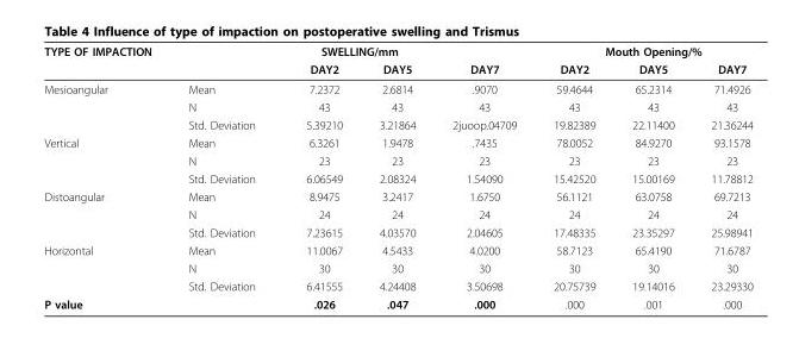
<table><thead><tr><td rowspan="2">TYPE OF IMPACTION</td><td colspan="4">SWELLING/mm</td><td colspan="3">Mouth Opening/%</td></tr><tr><td></td><td>DAY2</td><td>DAY5</td><td>DAY7</td><td>DAY2</td><td>DAY5</td><td>DAY7</td></tr></thead><tbody><tr><td rowspan="3">Mesioangular</td><td>Mean</td><td>7.2372</td><td>2.6814</td><td>.9070</td><td>59.4644</td><td>65.2314</td><td>71.4926</td></tr><tr><td>N</td><td>43</td><td>43</td><td>43</td><td>43</td><td>43</td><td>43</td></tr><tr><td>Std. Deviation</td><td>5.39210</td><td>3.21864</td><td>2juoop.04709</td><td>19.82389</td><td>22.11400</td><td>21.36244</td></tr><tr><td rowspan="3">Vertical</td><td>Mean</td><td>6.3261</td><td>1.9478</td><td>.7435</td><td>78.0052</td><td>84.9270</td><td>93.1578</td></tr><tr><td>N</td><td>23</td><td>23</td><td>23</td><td>23</td><td>23</td><td>23</td></tr><tr><td>Std. Deviation</td><td>6.06549</td><td>2.08324</td><td>1.54090</td><td>15.42520</td><td>15.00169</td><td>11.78812</td></tr><tr><td rowspan="3">Distoangular</td><td>Mean</td><td>8.9475</td><td>3.2417</td><td>1.6750</td><td>56.1121</td><td>63.0758</td><td>69.7213</td></tr><tr><td>N</td><td>24</td><td>24</td><td>24</td><td>24</td><td>24</td><td>24</td></tr><tr><td>Std. Deviation</td><td>7.23615</td><td>4.03570</td><td>2.04605</td><td>17.48335</td><td>23.35297</td><td>25.98941</td></tr><tr><td rowspan="3">Horizontal</td><td>Mean</td><td>11.0067</td><td>4.5433</td><td>4.0200</td><td>58.7123</td><td>65.4190</td><td>71.6787</td></tr><tr><td>N</td><td>30</td><td>30</td><td>30</td><td>30</td><td>30</td><td>30</td></tr><tr><td>Std. Deviation</td><td>6.41555</td><td>4.24408</td><td>3.50698</td><td>20.75739</td><td>19.14016</td><td>23.29330</td></tr><tr><td>P value</td><td></td><td>.026</td><td>.047</td><td>.000</td><td>.000</td><td>.001</td><td>.000</td></tr></tbody></table>